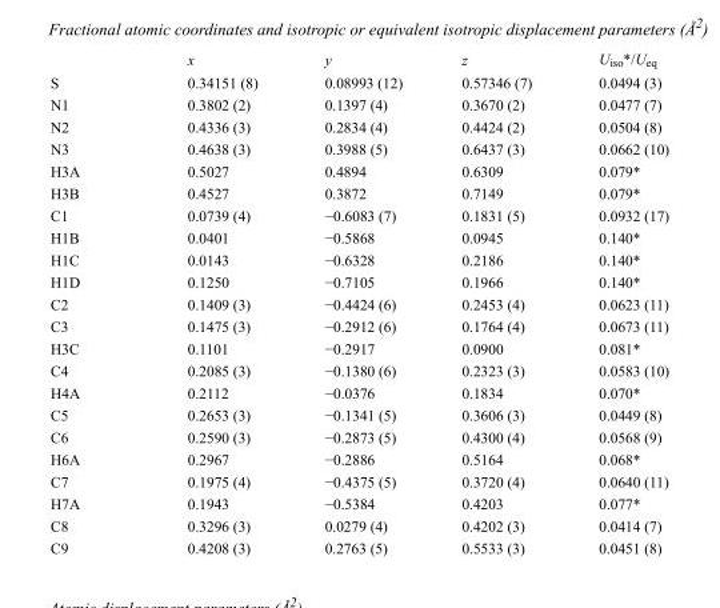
<table><thead><tr><td></td><td>x</td><td>y</td><td>z</td><td>U<sub>iso</sub>*/U<sub>eq</sub></td></tr></thead><tbody><tr><td>S</td><td>0.34151 (8)</td><td>0.08993 (12)</td><td>0.57346 (7)</td><td>0.0494 (3)</td></tr><tr><td>N1</td><td>0.3802 (2)</td><td>0.1397 (4)</td><td>0.3670 (2)</td><td>0.0477 (7)</td></tr><tr><td>N2</td><td>0.4336 (3)</td><td>0.2834 (4)</td><td>0.4424 (2)</td><td>0.0504 (8)</td></tr><tr><td>N3</td><td>0.4638 (3)</td><td>0.3988 (5)</td><td>0.6437 (3)</td><td>0.0662 (10)</td></tr><tr><td>H3A</td><td>0.5027</td><td>0.4894</td><td>0.6309</td><td>0.079*</td></tr><tr><td>H3B</td><td>0.4527</td><td>0.3872</td><td>0.7149</td><td>0.079*</td></tr><tr><td>C1</td><td>0.0739 (4)</td><td>−0.6083 (7)</td><td>0.1831 (5)</td><td>0.0932 (17)</td></tr><tr><td>H1B</td><td>0.0401</td><td>−0.5868</td><td>0.0945</td><td>0.140*</td></tr><tr><td>H1C</td><td>0.0143</td><td>−0.6328</td><td>0.2186</td><td>0.140*</td></tr><tr><td>H1D</td><td>0.1250</td><td>−0.7105</td><td>0.1966</td><td>0.140*</td></tr><tr><td>C2</td><td>0.1409 (3)</td><td>−0.4424 (6)</td><td>0.2453 (4)</td><td>0.0623 (11)</td></tr><tr><td>C3</td><td>0.1475 (3)</td><td>−0.2912 (6)</td><td>0.1764 (4)</td><td>0.0673 (11)</td></tr><tr><td>H3C</td><td>0.1101</td><td>−0.2917</td><td>0.0900</td><td>0.081*</td></tr><tr><td>C4</td><td>0.2085 (3)</td><td>−0.1380 (6)</td><td>0.2323 (3)</td><td>0.0583 (10)</td></tr><tr><td>H4A</td><td>0.2112</td><td>−0.0376</td><td>0.1834</td><td>0.070*</td></tr><tr><td>C5</td><td>0.2653 (3)</td><td>−0.1341 (5)</td><td>0.3606 (3)</td><td>0.0449 (8)</td></tr><tr><td>C6</td><td>0.2590 (3)</td><td>−0.2873 (5)</td><td>0.4300 (4)</td><td>0.0568 (9)</td></tr><tr><td>H6A</td><td>0.2967</td><td>−0.2886</td><td>0.5164</td><td>0.068*</td></tr><tr><td>C7</td><td>0.1975 (4)</td><td>−0.4375 (5)</td><td>0.3720 (4)</td><td>0.0640 (11)</td></tr><tr><td>H7A</td><td>0.1943</td><td>−0.5384</td><td>0.4203</td><td>0.077*</td></tr><tr><td>C8</td><td>0.3296 (3)</td><td>0.0279 (4)</td><td>0.4202 (3)</td><td>0.0414 (7)</td></tr><tr><td>C9</td><td>0.4208 (3)</td><td>0.2763 (5)</td><td>0.5533 (3)</td><td>0.0451 (8)</td></tr></tbody></table>